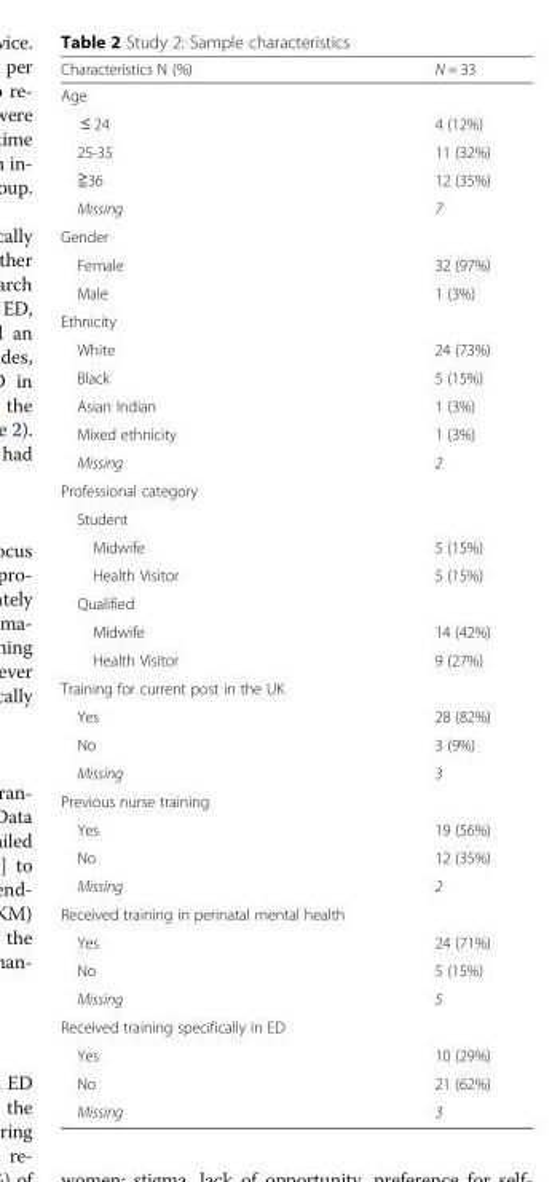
<table><thead><tr><td>Characteristics N (%)</td><td>N = 33</td></tr></thead><tbody><tr><td colspan="2">Age</td></tr><tr><td>≤ 24</td><td>4 (12%)</td></tr><tr><td>25-35</td><td>11 (32%)</td></tr><tr><td>≧36</td><td>12 (35%)</td></tr><tr><td>Missing</td><td>7</td></tr><tr><td colspan="2">Gender</td></tr><tr><td>Female</td><td>32 (97%)</td></tr><tr><td>Male</td><td>1 (3%)</td></tr><tr><td colspan="2">Ethnicity</td></tr><tr><td>White</td><td>24 (73%)</td></tr><tr><td>Black</td><td>5 (15%)</td></tr><tr><td>Asian Indian</td><td>1 (3%)</td></tr><tr><td>Mixed ethnicity</td><td>1 (3%)</td></tr><tr><td>Missing</td><td>2</td></tr><tr><td colspan="2">Professional category</td></tr><tr><td colspan="2">Student</td></tr><tr><td>Midwife</td><td>5 (15%)</td></tr><tr><td>Health Visitor</td><td>5 (15%)</td></tr><tr><td colspan="2">Qualified</td></tr><tr><td>Midwife</td><td>14 (42%)</td></tr><tr><td>Health Visitor</td><td>9 (27%)</td></tr><tr><td colspan="2">Training for current post in the UK</td></tr><tr><td>Yes</td><td>28 (82%)</td></tr><tr><td>No</td><td>3 (9%)</td></tr><tr><td>Missing</td><td>3</td></tr><tr><td colspan="2">Previous nurse training</td></tr><tr><td>Yes</td><td>19 (56%)</td></tr><tr><td>No</td><td>12 (35%)</td></tr><tr><td>Missing</td><td>2</td></tr><tr><td colspan="2">Received training in perinatal mental health</td></tr><tr><td>Yes</td><td>24 (71%)</td></tr><tr><td>No</td><td>5 (15%)</td></tr><tr><td>Missing</td><td>5</td></tr><tr><td colspan="2">Received training specifically in ED</td></tr><tr><td>Yes</td><td>10 (29%)</td></tr><tr><td>No</td><td>21 (62%)</td></tr><tr><td>Missing</td><td>3</td></tr></tbody></table>